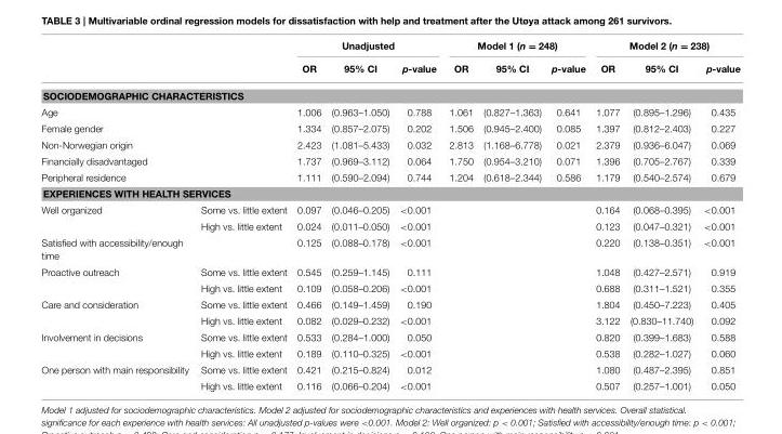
<table><thead><tr><td rowspan="2"></td><td rowspan="2"></td><td colspan="3">Unadjusted</td><td colspan="3">Model 1 (n = 248)</td><td colspan="3">Model 2 (n = 238)</td></tr><tr><td>OR</td><td>95% CI</td><td>p-value</td><td>OR</td><td>95% CI</td><td>p-value</td><td>OR</td><td>95% CI</td><td>p-value</td></tr></thead><tbody><tr><td colspan="11">SOCIODEMOGRAPHIC CHARACTERISTICS</td></tr><tr><td colspan="2">Age</td><td>1.006</td><td>(0.963–1.050)</td><td>0.788</td><td>1.061</td><td>(0.827–1.363)</td><td>0.641</td><td>1.077</td><td>(0.895–1.296)</td><td>0.435</td></tr><tr><td colspan="2">Female gender</td><td>1.334</td><td>(0.857–2.075)</td><td>0.202</td><td>1.506</td><td>(0.945–2.400)</td><td>0.085</td><td>1.397</td><td>(0.812–2.403)</td><td>0.227</td></tr><tr><td colspan="2">Non-Norwegian origin</td><td>2.423</td><td>(1.081–5.433)</td><td>0.032</td><td>2.813</td><td>(1.168–6.778)</td><td>0.021</td><td>2.379</td><td>(0.936–6.047)</td><td>0.069</td></tr><tr><td colspan="2">Financially disadvantaged</td><td>1.737</td><td>(0.969–3.112)</td><td>0.064</td><td>1.750</td><td>(0.954–3.210)</td><td>0.071</td><td>1.396</td><td>(0.705–2.767)</td><td>0.339</td></tr><tr><td colspan="2">Peripheral residence</td><td>1.111</td><td>(0.590–2.094)</td><td>0.744</td><td>1.204</td><td>(0.618–2.344)</td><td>0.586</td><td>1.179</td><td>(0.540–2.574)</td><td>0.679</td></tr><tr><td colspan="11">EXPERIENCES WITH HEALTH SERVICES</td></tr><tr><td rowspan="2">Well organized</td><td>Some vs. little extent</td><td>0.097</td><td>(0.046–0.205)</td><td>&lt;0.001</td><td></td><td></td><td></td><td>0.164</td><td>(0.068–0.395)</td><td>&lt;0.001</td></tr><tr><td>High vs. little extent</td><td>0.024</td><td>(0.011–0.050)</td><td>&lt;0.001</td><td></td><td></td><td></td><td>0.123</td><td>(0.047–0.321)</td><td>&lt;0.001</td></tr><tr><td>Satisfied with accessibility/enough time</td><td></td><td>0.125</td><td>(0.088–0.178)</td><td>&lt;0.001</td><td></td><td></td><td></td><td>0.220</td><td>(0.138–0.351)</td><td>&lt;0.001</td></tr><tr><td rowspan="2">Proactive outreach</td><td>Some vs. little extent</td><td>0.545</td><td>(0.259–1.145)</td><td>0.111</td><td></td><td></td><td></td><td>1.048</td><td>(0.427–2.571)</td><td>0.919</td></tr><tr><td>High vs. little extent</td><td>0.109</td><td>(0.058–0.206)</td><td>&lt;0.001</td><td></td><td></td><td></td><td>0.688</td><td>(0.311–1.521)</td><td>0.355</td></tr><tr><td rowspan="2">Care and consideration</td><td>Some vs. little extent</td><td>0.466</td><td>(0.149–1.459)</td><td>0.190</td><td></td><td></td><td></td><td>1.804</td><td>(0.450–7.223)</td><td>0.405</td></tr><tr><td>High vs. little extent</td><td>0.082</td><td>(0.029–0.232)</td><td>&lt;0.001</td><td></td><td></td><td></td><td>3.122</td><td>(0.830–11.740)</td><td>0.092</td></tr><tr><td rowspan="2">Involvement in decisions</td><td>Some vs. little extent</td><td>0.533</td><td>(0.284–1.000)</td><td>0.050</td><td></td><td></td><td></td><td>0.820</td><td>(0.399–1.683)</td><td>0.588</td></tr><tr><td>High vs. little extent</td><td>0.189</td><td>(0.110–0.325)</td><td>&lt;0.001</td><td></td><td></td><td></td><td>0.538</td><td>(0.282–1.027)</td><td>0.060</td></tr><tr><td rowspan="2">One person with main responsibility</td><td>Some vs. little extent</td><td>0.421</td><td>(0.215–0.824)</td><td>0.012</td><td></td><td></td><td></td><td>1.080</td><td>(0.487–2.395)</td><td>0.851</td></tr><tr><td>High vs. little extent</td><td>0.116</td><td>(0.066–0.204)</td><td>&lt;0.001</td><td></td><td></td><td></td><td>0.507</td><td>(0.257–1.001)</td><td>0.050</td></tr></tbody></table>